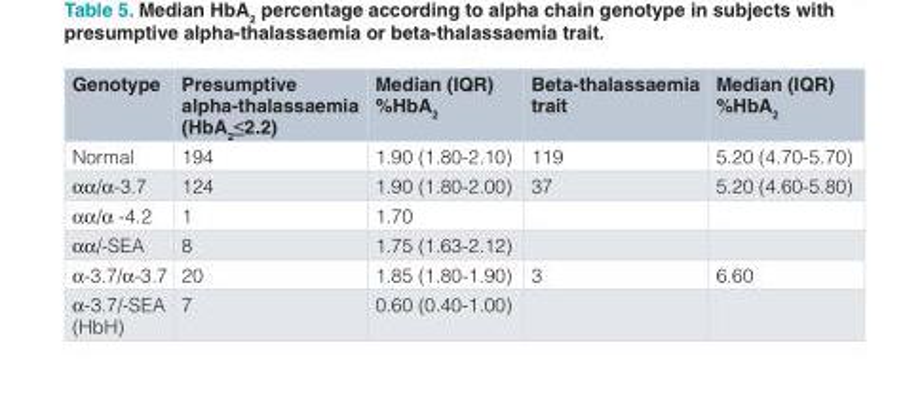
<table><thead><tr><td>Genotype</td><td>Presumptive alpha-thalassaemia (HbA<sub>2</sub>≤2.2)</td><td>Median (IQR) %HbA<sub>2</sub></td><td>Beta-thalassaemia trait</td><td>Median (IQR) %HbA<sub>2</sub></td></tr></thead><tbody><tr><td>Normal</td><td>194</td><td>1.90 (1.80-2.10)</td><td>119</td><td>5.20 (4.70-5.70)</td></tr><tr><td>αα/α-3.7</td><td>124</td><td>1.90 (1.80-2.00)</td><td>37</td><td>5.20 (4.60-5.80)</td></tr><tr><td>αα/α -4.2</td><td>1</td><td>1.70</td><td></td><td></td></tr><tr><td>αα/-SEA</td><td>8</td><td>1.75 (1.63-2.12)</td><td></td><td></td></tr><tr><td>α-3.7/α-3.7</td><td>20</td><td>1.85 (1.80-1.90)</td><td>3</td><td>6.60</td></tr><tr><td>α-3.7/-SEA (HbH)</td><td>7</td><td>0.60 (0.40-1.00)</td><td></td><td></td></tr></tbody></table>